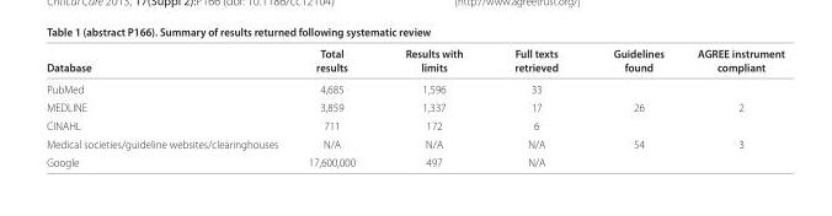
<table><thead><tr><td>Database</td><td>Total results</td><td>Results with limits</td><td>Full texts retrieved</td><td>Guidelines found</td><td>AGREE instrument compliant</td></tr></thead><tbody><tr><td>PubMed</td><td>4,685</td><td>1,596</td><td>33</td><td></td><td></td></tr><tr><td>MEDLINE</td><td>3,859</td><td>1,337</td><td>17</td><td>26</td><td>2</td></tr><tr><td>CINAHL</td><td>711</td><td>172</td><td>6</td><td></td><td></td></tr><tr><td>Medical societies/guideline websites/clearinghouses</td><td>N/A</td><td>N/A</td><td>N/A</td><td>54</td><td>3</td></tr><tr><td>Google</td><td>17,600,000</td><td>497</td><td>N/A</td><td></td><td></td></tr></tbody></table>